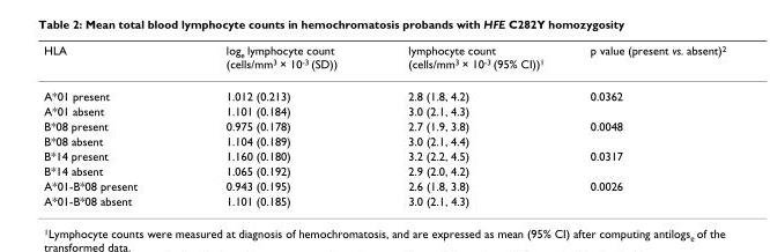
<table><thead><tr><td>HLA</td><td>log<sub>e</sub> lymphocyte count (cells/mm<sup>3</sup> × 10<sup>-3</sup> (SD))</td><td>lymphocyte count (cells/mm<sup>3</sup> × 10<sup>-3</sup> (95% CI))<sup>1</sup></td><td>p value (present vs. absent)<sup>2</sup></td></tr></thead><tbody><tr><td>A*01 present</td><td>1.012 (0.213)</td><td>2.8 (1.8, 4.2)</td><td>0.0362</td></tr><tr><td>A*01 absent</td><td>1.101 (0.184)</td><td>3.0 (2.1, 4.3)</td><td></td></tr><tr><td>B*08 present</td><td>0.975 (0.178)</td><td>2.7 (1.9, 3.8)</td><td>0.0048</td></tr><tr><td>B*08 absent</td><td>1.104 (0.189)</td><td>3.0 (2.1, 4.4)</td><td></td></tr><tr><td>B*14 present</td><td>1.160 (0.180)</td><td>3.2 (2.2, 4.5)</td><td>0.0317</td></tr><tr><td>B*14 absent</td><td>1.065 (0.192)</td><td>2.9 (2.0, 4.2)</td><td></td></tr><tr><td>A*01-B*08 present</td><td>0.943 (0.195)</td><td>2.6 (1.8, 3.8)</td><td>0.0026</td></tr><tr><td>A*01-B*08 absent</td><td>1.101 (0.185)</td><td>3.0 (2.1, 4.3)</td><td></td></tr></tbody></table>